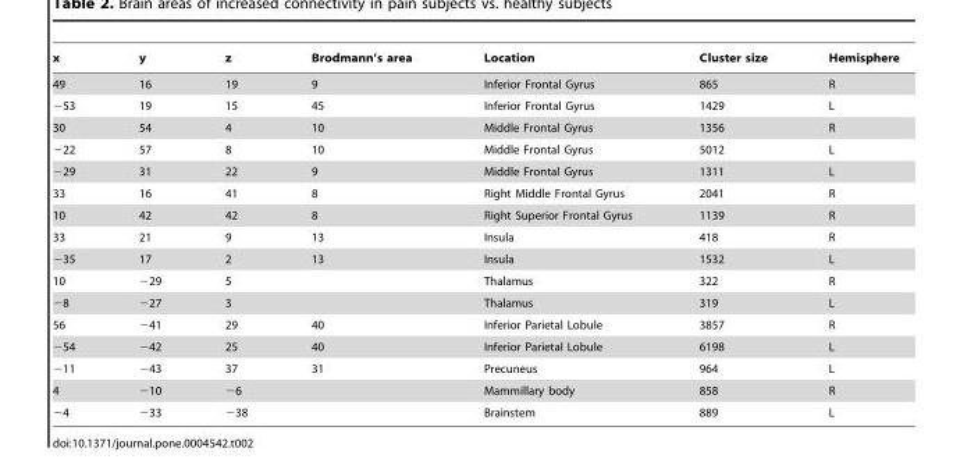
<table><thead><tr><td>x</td><td>y</td><td>z</td><td>Brodmann’s area</td><td>Location</td><td>Cluster size</td><td>Hemisphere</td></tr></thead><tbody><tr><td>49</td><td>16</td><td>19</td><td>9</td><td>Inferior Frontal Gyrus</td><td>865</td><td>R</td></tr><tr><td>−53</td><td>19</td><td>15</td><td>45</td><td>Inferior Frontal Gyrus</td><td>1429</td><td>L</td></tr><tr><td>30</td><td>54</td><td>4</td><td>10</td><td>Middle Frontal Gyrus</td><td>1356</td><td>R</td></tr><tr><td>−22</td><td>57</td><td>8</td><td>10</td><td>Middle Frontal Gyrus</td><td>5012</td><td>L</td></tr><tr><td>−29</td><td>31</td><td>22</td><td>9</td><td>Middle Frontal Gyrus</td><td>1311</td><td>L</td></tr><tr><td>33</td><td>16</td><td>41</td><td>8</td><td>Right Middle Frontal Gyrus</td><td>2041</td><td>R</td></tr><tr><td>10</td><td>42</td><td>42</td><td>8</td><td>Right Superior Frontal Gyrus</td><td>1139</td><td>R</td></tr><tr><td>33</td><td>21</td><td>9</td><td>13</td><td>Insula</td><td>418</td><td>R</td></tr><tr><td>−35</td><td>17</td><td>2</td><td>13</td><td>Insula</td><td>1532</td><td>L</td></tr><tr><td>10</td><td>−29</td><td>5</td><td></td><td>Thalamus</td><td>322</td><td>R</td></tr><tr><td>−8</td><td>−27</td><td>3</td><td></td><td>Thalamus</td><td>319</td><td>L</td></tr><tr><td>56</td><td>−41</td><td>29</td><td>40</td><td>Inferior Parietal Lobule</td><td>3857</td><td>R</td></tr><tr><td>−54</td><td>−42</td><td>25</td><td>40</td><td>Inferior Parietal Lobule</td><td>6198</td><td>L</td></tr><tr><td>−11</td><td>−43</td><td>37</td><td>31</td><td>Precuneus</td><td>964</td><td>L</td></tr><tr><td>4</td><td>−10</td><td>−6</td><td></td><td>Mammillary body</td><td>858</td><td>R</td></tr><tr><td>−4</td><td>−33</td><td>−38</td><td></td><td>Brainstem</td><td>889</td><td>L</td></tr></tbody></table>